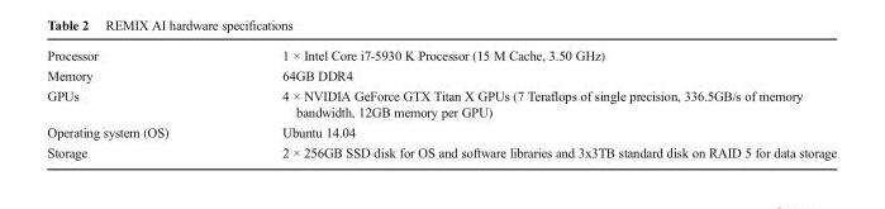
<table><tbody><tr><td>Processor</td><td>1 × Intel Core i7-5930 K Processor (15 M Cache, 3.50 GHz)</td></tr><tr><td>Memory</td><td>64GB DDR4</td></tr><tr><td>GPUs</td><td>4 × NVIDIA GeForce GTX Titan X GPUs (7 Teraflops of single precision, 336.5GB/s of memory bandwidth, 12GB memory per GPU)</td></tr><tr><td>Operating system (OS)</td><td>Ubuntu 14.04</td></tr><tr><td>Storage</td><td>2 × 256GB SSD disk for OS and software libraries and 3x3TB standard disk on RAID 5 for data storage</td></tr></tbody></table>